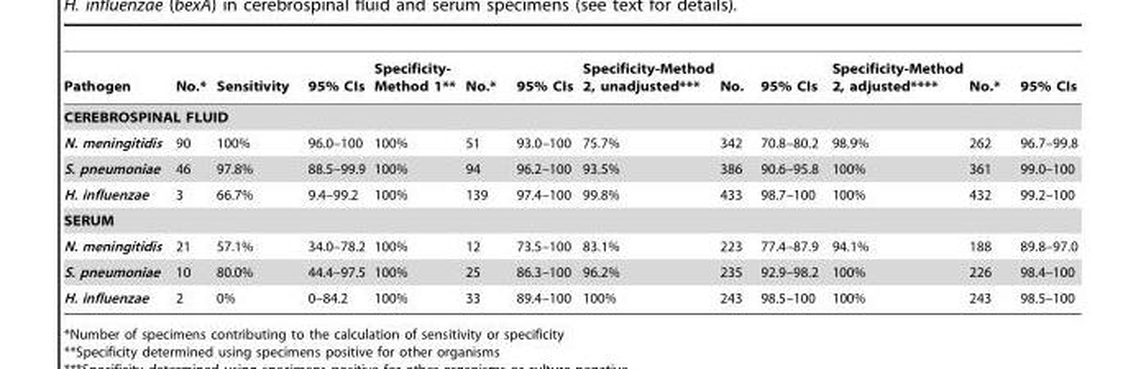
<table><thead><tr><td>Pathogen</td><td>No.*</td><td>Sensitivity</td><td>95% CIs</td><td>Specificity- Method 1**</td><td>No.*</td><td>95% CIs</td><td>Specificity-Method 2, unadjusted***</td><td>No.</td><td>95% CIs</td><td>Specificity-Method 2, adjusted****</td><td>No.*</td><td>95% CIs</td></tr></thead><tbody><tr><td colspan="13">CEREBROSPINAL FLUID</td></tr><tr><td>N. meningitidis</td><td>90</td><td>100%</td><td>96.0–100</td><td>100%</td><td>51</td><td>93.0–100</td><td>75.7%</td><td>342</td><td>70.8–80.2</td><td>98.9%</td><td>262</td><td>96.7–99.8</td></tr><tr><td>S. pneumoniae</td><td>46</td><td>97.8%</td><td>88.5–99.9</td><td>100%</td><td>94</td><td>96.2–100</td><td>93.5%</td><td>386</td><td>90.6–95.8</td><td>100%</td><td>361</td><td>99.0–100</td></tr><tr><td>H. influenzae</td><td>3</td><td>66.7%</td><td>9.4–99.2</td><td>100%</td><td>139</td><td>97.4–100</td><td>99.8%</td><td>433</td><td>98.7–100</td><td>100%</td><td>432</td><td>99.2–100</td></tr><tr><td colspan="13">SERUM</td></tr><tr><td>N. meningitidis</td><td>21</td><td>57.1%</td><td>34.0–78.2</td><td>100%</td><td>12</td><td>73.5–100</td><td>83.1%</td><td>223</td><td>77.4–87.9</td><td>94.1%</td><td>188</td><td>89.8–97.0</td></tr><tr><td>S. pneumoniae</td><td>10</td><td>80.0%</td><td>44.4–97.5</td><td>100%</td><td>25</td><td>86.3–100</td><td>96.2%</td><td>235</td><td>92.9–98.2</td><td>100%</td><td>226</td><td>98.4–100</td></tr><tr><td>H. influenzae</td><td>2</td><td>0%</td><td>0–84.2</td><td>100%</td><td>33</td><td>89.4–100</td><td>100%</td><td>243</td><td>98.5–100</td><td>100%</td><td>243</td><td>98.5–100</td></tr></tbody></table>